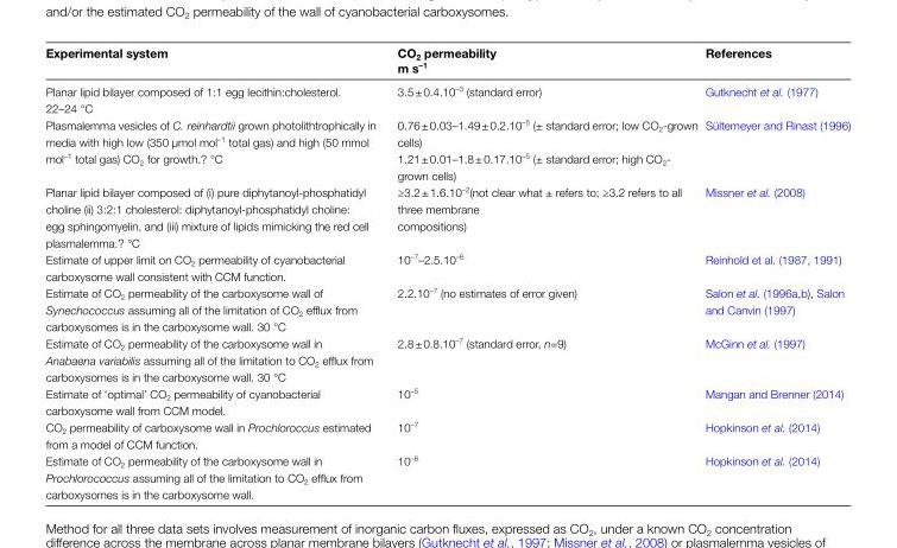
<table><thead><tr><td>Experimental system</td><td>CO<sub>2</sub> permeability m s<sup>–1</sup></td><td>References</td></tr></thead><tbody><tr><td>Planar lipid bilayer composed of 1:1 egg lecithin:cholesterol. 22–24 °C</td><td>3.5 ± 0.4.10<sup>–3</sup> (standard error)</td><td>Gutknecht et al. (1977)</td></tr><tr><td>Plasmalemma vesicles of C. reinhardtii grown photolithtrophically in media with high low (350 μmol mol<sup>–1</sup> total gas) and high (50 mmol mol<sup>–1</sup> total gas) CO<sub>2</sub> for growth.? °C</td><td>0.76 ± 0.03–1.49 ± 0.2.10<sup>–5</sup> (± standard error; low CO<sub>2</sub>-grown cells) 1.21 ± 0.01–1.8 ± 0.17.10<sup>–5</sup> (± standard error; high CO<sub>2</sub>- grown cells)</td><td>Sültemeyer and Rinast (1996)</td></tr><tr><td>Planar lipid bilayer composed of (i) pure diphytanoyl-phosphatidyl choline (ii) 3:2:1 cholesterol: diphytanoyl-phosphatidyl choline: egg sphingomyelin, and (iii) mixture of lipids mimicking the red cell plasmalemma.? °C</td><td>≥3.2 ± 1.6.10<sup>–2</sup>(not clear what ± refers to; ≥3.2 refers to all three membrane compositions)</td><td>Missner et al. (2008)</td></tr><tr><td>Estimate of upper limit on CO<sub>2</sub> permeability of cyanobacterial carboxysome wall consistent with CCM function.</td><td>10<sup>–7</sup>–2.5.10<sup>–6</sup></td><td>Reinhold et al. (1987, 1991)</td></tr><tr><td>Estimate of CO<sub>2</sub> permeability of the carboxysome wall of Synechococcus assuming all of the limitation of CO<sub>2</sub> efflux from carboxysomes is in the carboxysome wall. 30 °C</td><td>2.2.10<sup>–7</sup> (no estimates of error given)</td><td>Salon et al. (1996a,b), Salon and Canvin (1997)</td></tr><tr><td>Estimate of CO<sub>2</sub> permeability of the carboxysome wall in Anabaena variabilis assuming all of the limitation to CO<sub>2</sub> efflux from carboxysomes is in the carboxysome wall. 30 °C</td><td>2.8 ± 0.8.10<sup>–7</sup> (standard error, n=9)</td><td>McGinn et al. (1997)</td></tr><tr><td>Estimate of ‘optimal’ CO<sub>2</sub> permeability of cyanobacterial carboxysome wall from CCM model.</td><td>10<sup>–5</sup></td><td>Mangan and Brenner (2014)</td></tr><tr><td>CO<sub>2</sub> permeability of carboxysome wall in Prochloroccus estimated from a model of CCM function.</td><td>10<sup>–7</sup></td><td>Hopkinson et al. (2014)</td></tr><tr><td>Estimate of CO<sub>2</sub> permeability of the carboxysome wall in Prochlorococcus assuming all of the limitation to CO<sub>2</sub> efflux from carboxysomes is in the carboxysome wall.</td><td>10<sup>–6</sup></td><td>Hopkinson et al. (2014)</td></tr></tbody></table>